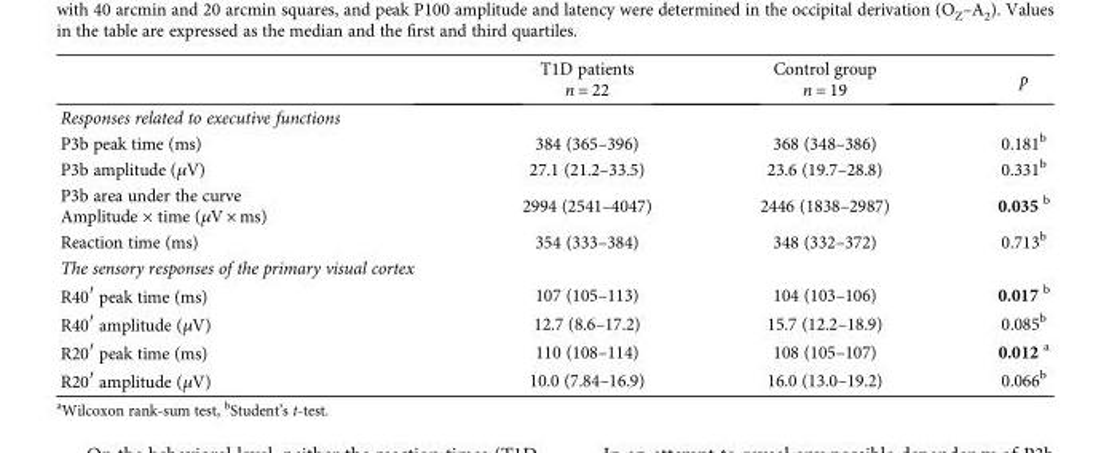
<table><thead><tr><td></td><td>T1D patients n = 22</td><td>Control group n = 19</td><td>p</td></tr></thead><tbody><tr><td colspan="4">Responses related to executive functions</td></tr><tr><td>P3b peak time (ms)</td><td>384 (365–396)</td><td>368 (348–386)</td><td>0.181<sup>b</sup></td></tr><tr><td>P3b amplitude (μV)</td><td>27.1 (21.2–33.5)</td><td>23.6 (19.7–28.8)</td><td>0.331<sup>b</sup></td></tr><tr><td>P3b area under the curve Amplitude × time (μV × ms)</td><td>2994 (2541–4047)</td><td>2446 (1838–2987)</td><td>0.035 <sup>b</sup></td></tr><tr><td>Reaction time (ms)</td><td>354 (333–384)</td><td>348 (332–372)</td><td>0.713<sup>b</sup></td></tr><tr><td colspan="4">The sensory responses of the primary visual cortex</td></tr><tr><td>R40′ peak time (ms)</td><td>107 (105–113)</td><td>104 (103–106)</td><td>0.017 <sup>b</sup></td></tr><tr><td>R40′ amplitude (μV)</td><td>12.7 (8.6–17.2)</td><td>15.7 (12.2–18.9)</td><td>0.085<sup>b</sup></td></tr><tr><td>R20′ peak time (ms)</td><td>110 (108–114)</td><td>108 (105–107)</td><td>0.012 <sup>a</sup></td></tr><tr><td>R20′ amplitude (μV)</td><td>10.0 (7.84–16.9)</td><td>16.0 (13.0–19.2)</td><td>0.066<sup>b</sup></td></tr></tbody></table>